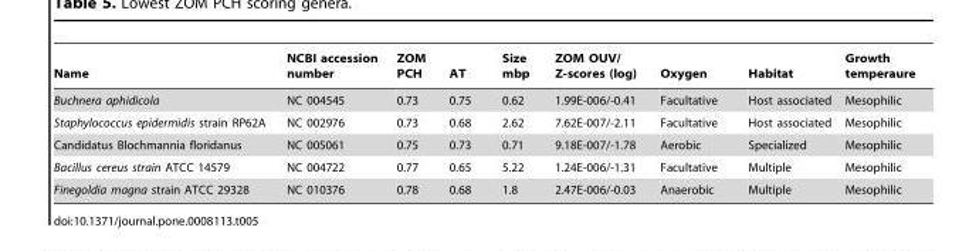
<table><thead><tr><td>Name</td><td>NCBI accession number</td><td>ZOM PCH</td><td>AT</td><td>Size mbp</td><td>ZOM OUV/ Z-scores (log)</td><td>Oxygen</td><td>Habitat</td><td>Growth temperaure</td></tr></thead><tbody><tr><td>Buchnera aphidicola</td><td>NC 004545</td><td>0.73</td><td>0.75</td><td>0.62</td><td>1.99E-006/-0.41</td><td>Facultative</td><td>Host associated</td><td>Mesophilic</td></tr><tr><td>Staphylococcus epidermidis strain RP62A</td><td>NC 002976</td><td>0.73</td><td>0.68</td><td>2.62</td><td>7.62E-007/-2.11</td><td>Facultative</td><td>Host associated</td><td>Mesophilic</td></tr><tr><td>Candidatus Blochmannia floridanus</td><td>NC 005061</td><td>0.75</td><td>0.73</td><td>0.71</td><td>9.18E-007/-1.78</td><td>Aerobic</td><td>Specialized</td><td>Mesophilic</td></tr><tr><td>Bacillus cereus strain ATCC 14579</td><td>NC 004722</td><td>0.77</td><td>0.65</td><td>5.22</td><td>1.24E-006/-1.31</td><td>Facultative</td><td>Multiple</td><td>Mesophilic</td></tr><tr><td>Finegoldia magna strain ATCC 29328</td><td>NC 010376</td><td>0.78</td><td>0.68</td><td>1.8</td><td>2.47E-006/-0.03</td><td>Anaerobic</td><td>Multiple</td><td>Mesophilic</td></tr></tbody></table>